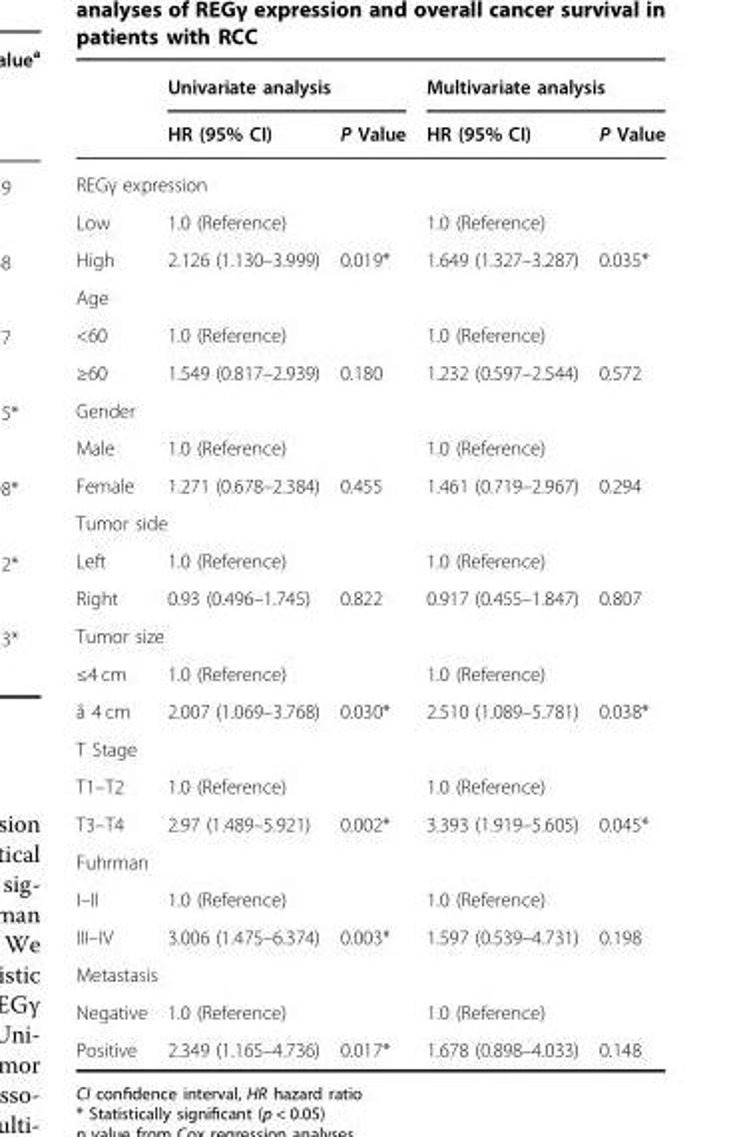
<table><thead><tr><td rowspan="2"></td><td colspan="2">Univariate analysis</td><td colspan="2">Multivariate analysis</td></tr><tr><td>HR (95% CI)</td><td>P Value</td><td>HR (95% CI)</td><td>P Value</td></tr></thead><tbody><tr><td colspan="5">REGγ expression</td></tr><tr><td>Low</td><td>1.0 (Reference)</td><td></td><td>1.0 (Reference)</td><td></td></tr><tr><td>High</td><td>2.126 (1.130–3.999)</td><td>0.019*</td><td>1.649 (1.327–3.287)</td><td>0.035*</td></tr><tr><td colspan="5">Age</td></tr><tr><td>&lt;60</td><td>1.0 (Reference)</td><td></td><td>1.0 (Reference)</td><td></td></tr><tr><td>≥60</td><td>1.549 (0.817–2.939)</td><td>0.180</td><td>1.232 (0.597–2.544)</td><td>0.572</td></tr><tr><td colspan="5">Gender</td></tr><tr><td>Male</td><td>1.0 (Reference)</td><td></td><td>1.0 (Reference)</td><td></td></tr><tr><td>Female</td><td>1.271 (0.678–2.384)</td><td>0.455</td><td>1.461 (0.719–2.967)</td><td>0.294</td></tr><tr><td colspan="5">Tumor side</td></tr><tr><td>Left</td><td>1.0 (Reference)</td><td></td><td>1.0 (Reference)</td><td></td></tr><tr><td>Right</td><td>0.93 (0.496–1.745)</td><td>0.822</td><td>0.917 (0.455–1.847)</td><td>0.807</td></tr><tr><td colspan="5">Tumor size</td></tr><tr><td>≤4 cm</td><td>1.0 (Reference)</td><td></td><td>1.0 (Reference)</td><td></td></tr><tr><td>å 4 cm</td><td>2.007 (1.069–3.768)</td><td>0.030*</td><td>2.510 (1.089–5.781)</td><td>0.038*</td></tr><tr><td colspan="5">T Stage</td></tr><tr><td>T1–T2</td><td>1.0 (Reference)</td><td></td><td>1.0 (Reference)</td><td></td></tr><tr><td>T3–T4</td><td>2.97 (1.489–5.921)</td><td>0.002*</td><td>3.393 (1.919–5.605)</td><td>0.045*</td></tr><tr><td colspan="5">Fuhrman</td></tr><tr><td>I–II</td><td>1.0 (Reference)</td><td></td><td>1.0 (Reference)</td><td></td></tr><tr><td>III–IV</td><td>3.006 (1.475–6.374)</td><td>0.003*</td><td>1.597 (0.539–4.731)</td><td>0.198</td></tr><tr><td colspan="5">Metastasis</td></tr><tr><td>Negative</td><td>1.0 (Reference)</td><td></td><td>1.0 (Reference)</td><td></td></tr><tr><td>Positive</td><td>2.349 (1.165–4.736)</td><td>0.017*</td><td>1.678 (0.898–4.033)</td><td>0.148</td></tr></tbody></table>